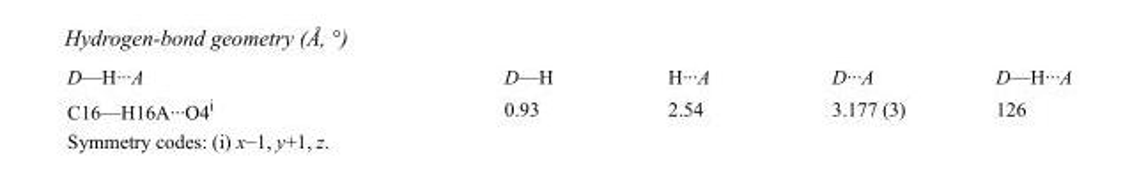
<table><tbody><tr><td>D—H···A</td><td>D—H</td><td>H···A</td><td>D···A</td><td>D—H···A</td></tr><tr><td>C16—H16A···O4<sup>i</sup></td><td>0.93</td><td>2.54</td><td>3.177 (3)</td><td>126</td></tr></tbody></table>